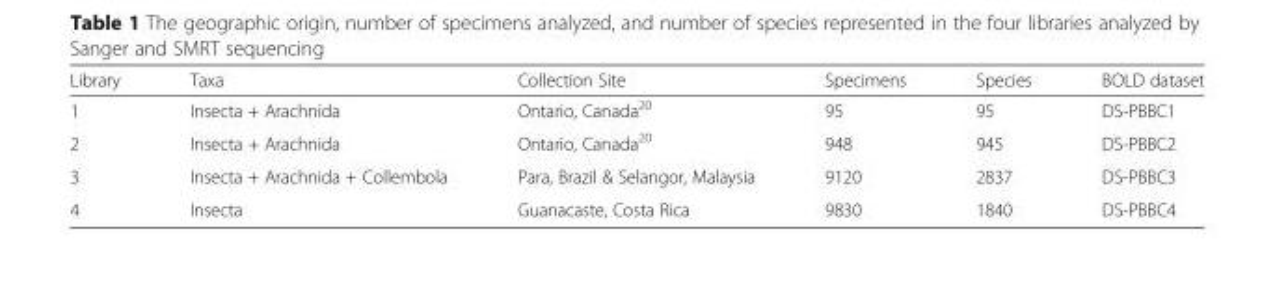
<table><thead><tr><td>Library</td><td>Taxa</td><td>Collection Site</td><td>Specimens</td><td>Species</td><td>BOLD dataset</td></tr></thead><tbody><tr><td>1</td><td>Insecta + Arachnida</td><td>Ontario, Canada<sup>20</sup></td><td>95</td><td>95</td><td>DS-PBBC1</td></tr><tr><td>2</td><td>Insecta + Arachnida</td><td>Ontario, Canada<sup>20</sup></td><td>948</td><td>945</td><td>DS-PBBC2</td></tr><tr><td>3</td><td>Insecta + Arachnida + Collembola</td><td>Para, Brazil &amp; Selangor, Malaysia</td><td>9120</td><td>2837</td><td>DS-PBBC3</td></tr><tr><td>4</td><td>Insecta</td><td>Guanacaste, Costa Rica</td><td>9830</td><td>1840</td><td>DS-PBBC4</td></tr></tbody></table>